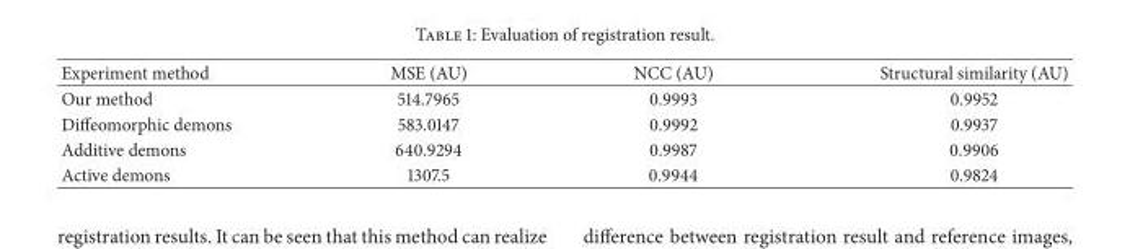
<table><thead><tr><td>Experiment method</td><td>MSE (AU)</td><td>NCC (AU)</td><td>Structural similarity (AU)</td></tr></thead><tbody><tr><td>Our method</td><td>514.7965</td><td>0.9993</td><td>0.9952</td></tr><tr><td>Diffeomorphic demons</td><td>583.0147</td><td>0.9992</td><td>0.9937</td></tr><tr><td>Additive demons</td><td>640.9294</td><td>0.9987</td><td>0.9906</td></tr><tr><td>Active demons</td><td>1307.5</td><td>0.9944</td><td>0.9824</td></tr></tbody></table>